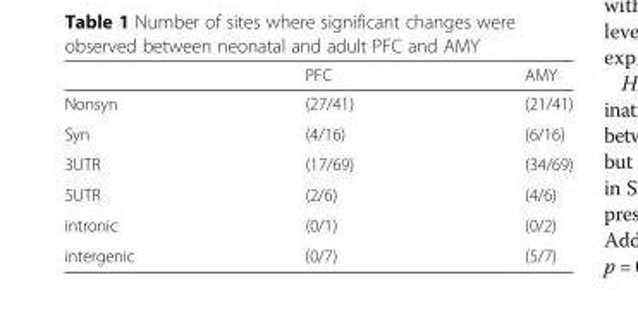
<table><thead><tr><td></td><td>PFC</td><td>AMY</td></tr></thead><tbody><tr><td>Nonsyn</td><td>(27/41)</td><td>(21/41)</td></tr><tr><td>Syn</td><td>(4/16)</td><td>(6/16)</td></tr><tr><td>3UTR</td><td>(17/69)</td><td>(34/69)</td></tr><tr><td>5UTR</td><td>(2/6)</td><td>(4/6)</td></tr><tr><td>intronic</td><td>(0/1)</td><td>(0/2)</td></tr><tr><td>intergenic</td><td>(0/7)</td><td>(5/7)</td></tr></tbody></table>